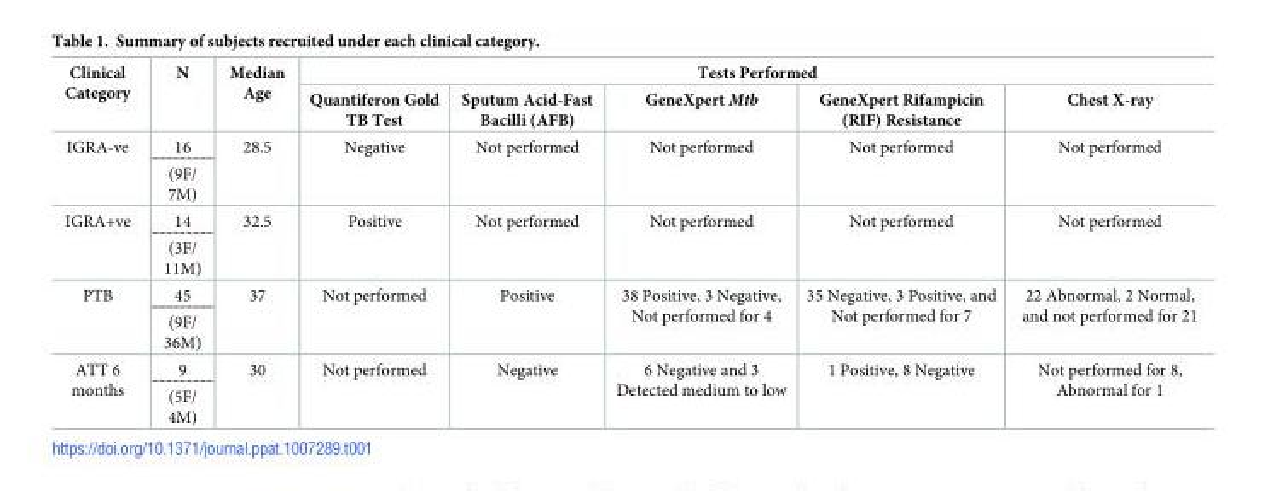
<table><thead><tr><td rowspan="2">Clinical Category</td><td rowspan="2">N</td><td rowspan="2">Median Age</td><td colspan="5">Tests Performed</td></tr><tr><td>Quantiferon Gold TB Test</td><td>Sputum Acid-Fast Bacilli (AFB)</td><td>GeneXpert Mtb</td><td>GeneXpert Rifampicin (RIF) Resistance</td><td>Chest X-ray</td></tr></thead><tbody><tr><td rowspan="2">IGRA-ve</td><td>16</td><td rowspan="2">28.5</td><td rowspan="2">Negative</td><td rowspan="2">Not performed</td><td rowspan="2">Not performed</td><td rowspan="2">Not performed</td><td rowspan="2">Not performed</td></tr><tr><td>(9F/ 7M)</td></tr><tr><td rowspan="2">IGRA+ve</td><td>14</td><td rowspan="2">32.5</td><td rowspan="2">Positive</td><td rowspan="2">Not performed</td><td rowspan="2">Not performed</td><td rowspan="2">Not performed</td><td rowspan="2">Not performed</td></tr><tr><td>(3F/ 11M)</td></tr><tr><td rowspan="2">PTB</td><td>45</td><td rowspan="2">37</td><td rowspan="2">Not performed</td><td rowspan="2">Positive</td><td rowspan="2">38 Positive, 3 Negative, Not performed for 4</td><td rowspan="2">35 Negative, 3 Positive, and Not performed for 7</td><td rowspan="2">22 Abnormal, 2 Normal, and not performed for 21</td></tr><tr><td>(9F/ 36M)</td></tr><tr><td rowspan="2">ATT 6 months</td><td>9</td><td rowspan="2">30</td><td rowspan="2">Not performed</td><td rowspan="2">Negative</td><td rowspan="2">6 Negative and 3 Detected medium to low</td><td rowspan="2">1 Positive, 8 Negative</td><td rowspan="2">Not performed for 8, Abnormal for 1</td></tr><tr><td>(5F/ 4M)</td></tr></tbody></table>